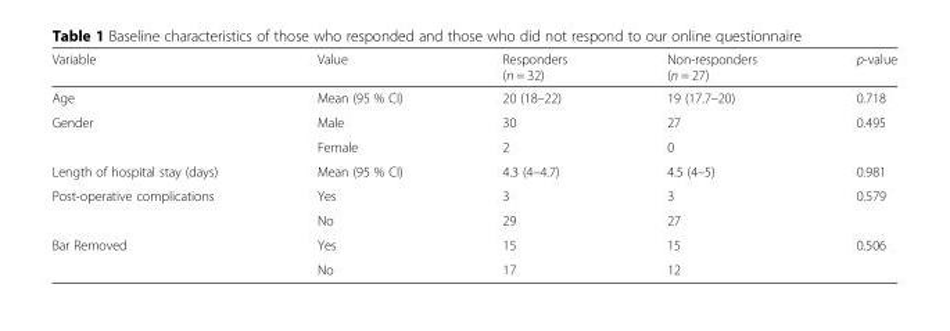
<table><thead><tr><td>Variable</td><td>Value</td><td>Responders (n = 32)</td><td>Non-responders (n = 27)</td><td>p-value</td></tr></thead><tbody><tr><td>Age</td><td>Mean (95 % CI)</td><td>20 (18–22)</td><td>19 (17.7–20)</td><td>0.718</td></tr><tr><td rowspan="2">Gender</td><td>Male</td><td>30</td><td>27</td><td>0.495</td></tr><tr><td>Female</td><td>2</td><td>0</td><td></td></tr><tr><td>Length of hospital stay (days)</td><td>Mean (95 % CI)</td><td>4.3 (4–4.7)</td><td>4.5 (4–5)</td><td>0.981</td></tr><tr><td rowspan="2">Post-operative complications</td><td>Yes</td><td>3</td><td>3</td><td>0.579</td></tr><tr><td>No</td><td>29</td><td>27</td><td></td></tr><tr><td rowspan="2">Bar Removed</td><td>Yes</td><td>15</td><td>15</td><td>0.506</td></tr><tr><td>No</td><td>17</td><td>12</td><td></td></tr></tbody></table>